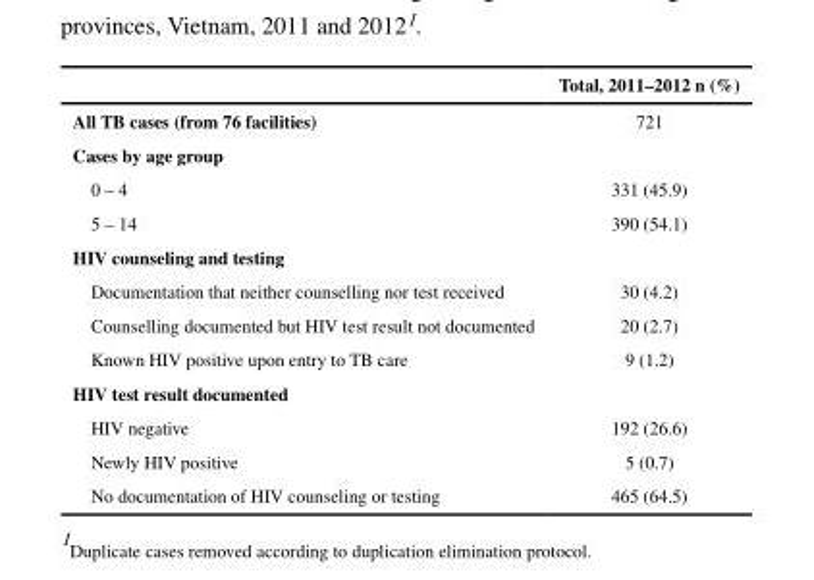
<table><thead><tr><td></td><td>Total, 2011–2012 n (%)</td></tr></thead><tbody><tr><td>All TB cases (from 76 facilities)</td><td>721</td></tr><tr><td colspan="2">Cases by age group</td></tr><tr><td>0 – 4</td><td>331 (45.9)</td></tr><tr><td>5 – 14</td><td>390 (54.1)</td></tr><tr><td colspan="2">HIV counseling and testing</td></tr><tr><td>Documentation that neither counselling nor test received</td><td>30 (4.2)</td></tr><tr><td>Counselling documented but HIV test result not documented</td><td>20 (2.7)</td></tr><tr><td>Known HIV positive upon entry to TB care</td><td>9 (1.2)</td></tr><tr><td colspan="2">HIV test result documented</td></tr><tr><td>HIV negative</td><td>192 (26.6)</td></tr><tr><td>Newly HIV positive</td><td>5 (0.7)</td></tr><tr><td>No documentation of HIV counseling or testing</td><td>465 (64.5)</td></tr></tbody></table>